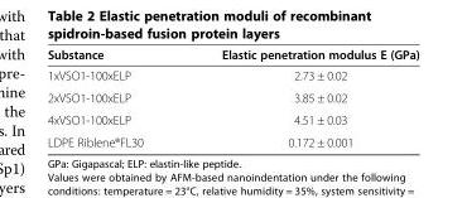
<table><thead><tr><td>Substance</td><td>Elastic penetration modulus E (GPa)</td></tr></thead><tbody><tr><td>1xVSO1-100xELP</td><td>2.73 ± 0.02</td></tr><tr><td>2xVSO1-100xELP</td><td>3.85 ± 0.02</td></tr><tr><td>4xVSO1-100xELP</td><td>4.51 ± 0.03</td></tr><tr><td>LDPE Riblene®FL30</td><td>0.172 ± 0.001</td></tr></tbody></table>